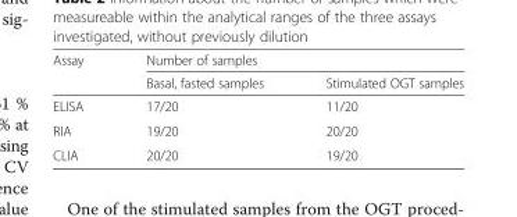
<table><thead><tr><td rowspan="2">Assay</td><td colspan="2">Number of samples</td></tr><tr><td>Basal, fasted samples</td><td>Stimulated OGT samples</td></tr></thead><tbody><tr><td>ELISA</td><td>17/20</td><td>11/20</td></tr><tr><td>RIA</td><td>19/20</td><td>20/20</td></tr><tr><td>CLIA</td><td>20/20</td><td>19/20</td></tr></tbody></table>